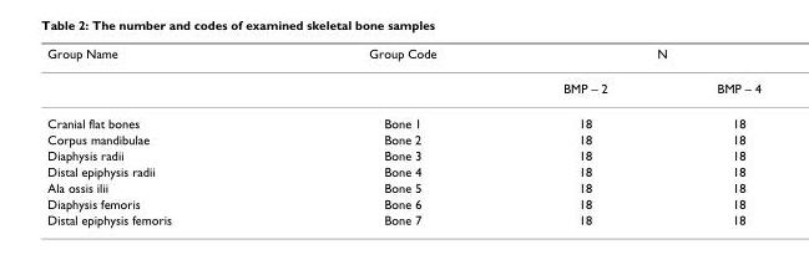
<table><thead><tr><td rowspan="2">Group Name</td><td rowspan="2">Group Code</td><td colspan="2">N</td></tr><tr><td>BMP – 2</td><td>BMP – 4</td></tr></thead><tbody><tr><td>Cranial flat bones</td><td>Bone 1</td><td>18</td><td>18</td></tr><tr><td>Corpus mandibulae</td><td>Bone 2</td><td>18</td><td>18</td></tr><tr><td>Diaphysis radii</td><td>Bone 3</td><td>18</td><td>18</td></tr><tr><td>Distal epiphysis radii</td><td>Bone 4</td><td>18</td><td>18</td></tr><tr><td>Ala ossis ilii</td><td>Bone 5</td><td>18</td><td>18</td></tr><tr><td>Diaphysis femoris</td><td>Bone 6</td><td>18</td><td>18</td></tr><tr><td>Distal epiphysis femoris</td><td>Bone 7</td><td>18</td><td>18</td></tr></tbody></table>